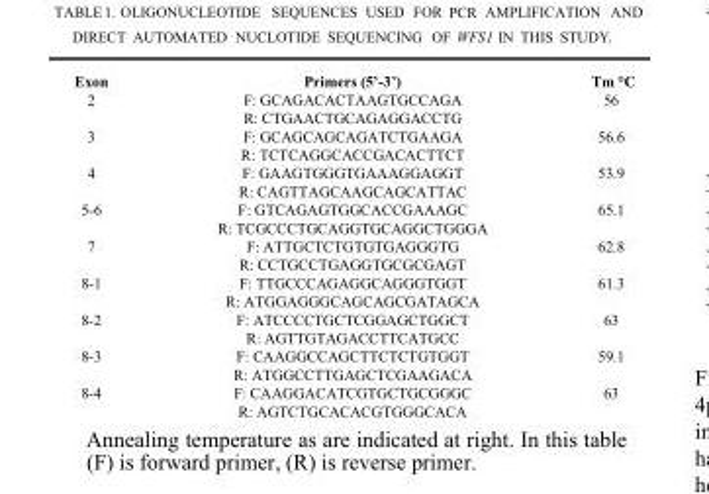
<table><thead><tr><td>Exon</td><td>Primers (5’-3’)</td><td>Tm °C</td></tr></thead><tbody><tr><td rowspan="2">2</td><td>F: GCAGACACTAAGTGCCAGA</td><td>56</td></tr><tr><td>R: CTGAACTGCAGAGGACCTG</td><td></td></tr><tr><td rowspan="2">3</td><td>F: GCAGCAGCAGATCTGAAGA</td><td>56.6</td></tr><tr><td>R: TCTCAGGCACCGACACTTCT</td><td></td></tr><tr><td rowspan="2">4</td><td>F: GAAGTGGGTGAAAGGAGGT</td><td>53.9</td></tr><tr><td>R: CAGTTAGCAAGCAGCATTAC</td><td></td></tr><tr><td rowspan="2">5-6</td><td>F: GTCAGAGTGGCACCGAAAGC</td><td>65.1</td></tr><tr><td>R: TCGCCCTGCAGGTGCAGGCTGGGA</td><td></td></tr><tr><td rowspan="2">7</td><td>F: ATTGCTCTGTGTGAGGGTG</td><td>62.8</td></tr><tr><td>R: CCTGCCTGAGGTGCGCGAGT</td><td></td></tr><tr><td rowspan="2">8-1</td><td>F: TTGCCCAGAGGCAGGGTGGT</td><td>61.3</td></tr><tr><td>R: ATGGAGGGCAGCAGCGATAGCA</td><td></td></tr><tr><td rowspan="2">8-2</td><td>F: ATCCCCTGCTCGGAGCTGGCT</td><td>63</td></tr><tr><td>R: AGTTGTAGACCTTCATGCC</td><td></td></tr><tr><td rowspan="2">8-3</td><td>F: CAAGGCCAGCTTCTCTGTGGT</td><td>59.1</td></tr><tr><td>R: ATGGCCTTGAGCTCGAAGACA</td><td></td></tr><tr><td rowspan="2">8-4</td><td>F: CAAGGACATCGTGCTGCGGGC</td><td>63</td></tr><tr><td>R: AGTCTGCACACGTGGGCACA</td><td></td></tr></tbody></table>